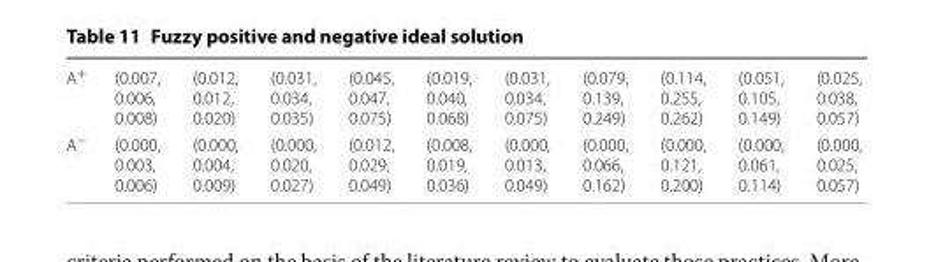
<table><tbody><tr><td>A<sup>+</sup></td><td>(0.007, 0.006, 0.008)</td><td>(0.012, 0.012, 0.020)</td><td>(0.031, 0.034, 0.035)</td><td>(0.045, 0.047, 0.075)</td><td>(0.019, 0.040, 0.068)</td><td>(0.031, 0.034, 0.075)</td><td>(0.079, 0.139, 0.249)</td><td>(0.114, 0.255, 0.262)</td><td>(0.051, 0.105, 0.149)</td><td>(0.025, 0.038, 0.057)</td></tr><tr><td>A<sup>−</sup></td><td>(0.000, 0.003, 0.006)</td><td>(0.000, 0.004, 0.009)</td><td>(0.000, 0.020, 0.027)</td><td>(0.012, 0.029, 0.049)</td><td>(0.008, 0.019, 0.036)</td><td>(0.000, 0.013, 0.049)</td><td>(0.000, 0.066, 0.162)</td><td>(0.000, 0.121, 0.200)</td><td>(0.000, 0.061, 0.114)</td><td>(0.000, 0.025, 0.057)</td></tr></tbody></table>